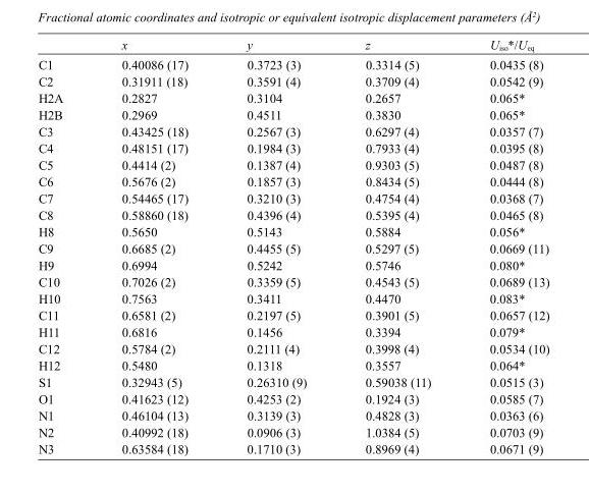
<table><thead><tr><td></td><td>x</td><td>y</td><td>z</td><td>U<sub>iso</sub>*/U<sub>eq</sub></td></tr></thead><tbody><tr><td>C1</td><td>0.40086 (17)</td><td>0.3723 (3)</td><td>0.3314 (5)</td><td>0.0435 (8)</td></tr><tr><td>C2</td><td>0.31911 (18)</td><td>0.3591 (4)</td><td>0.3709 (4)</td><td>0.0542 (9)</td></tr><tr><td>H2A</td><td>0.2827</td><td>0.3104</td><td>0.2657</td><td>0.065*</td></tr><tr><td>H2B</td><td>0.2969</td><td>0.4511</td><td>0.3830</td><td>0.065*</td></tr><tr><td>C3</td><td>0.43425 (18)</td><td>0.2567 (3)</td><td>0.6297 (4)</td><td>0.0357 (7)</td></tr><tr><td>C4</td><td>0.48151 (17)</td><td>0.1984 (3)</td><td>0.7933 (4)</td><td>0.0395 (8)</td></tr><tr><td>C5</td><td>0.4414 (2)</td><td>0.1387 (4)</td><td>0.9303 (5)</td><td>0.0487 (8)</td></tr><tr><td>C6</td><td>0.5676 (2)</td><td>0.1857 (3)</td><td>0.8434 (5)</td><td>0.0444 (8)</td></tr><tr><td>C7</td><td>0.54465 (17)</td><td>0.3210 (3)</td><td>0.4754 (4)</td><td>0.0368 (7)</td></tr><tr><td>C8</td><td>0.58860 (18)</td><td>0.4396 (4)</td><td>0.5395 (4)</td><td>0.0465 (8)</td></tr><tr><td>H8</td><td>0.5650</td><td>0.5143</td><td>0.5884</td><td>0.056*</td></tr><tr><td>C9</td><td>0.6685 (2)</td><td>0.4455 (5)</td><td>0.5297 (5)</td><td>0.0669 (11)</td></tr><tr><td>H9</td><td>0.6994</td><td>0.5242</td><td>0.5746</td><td>0.080*</td></tr><tr><td>C10</td><td>0.7026 (2)</td><td>0.3359 (5)</td><td>0.4543 (5)</td><td>0.0689 (13)</td></tr><tr><td>H10</td><td>0.7563</td><td>0.3411</td><td>0.4470</td><td>0.083*</td></tr><tr><td>C11</td><td>0.6581 (2)</td><td>0.2197 (5)</td><td>0.3901 (5)</td><td>0.0657 (12)</td></tr><tr><td>H11</td><td>0.6816</td><td>0.1456</td><td>0.3394</td><td>0.079*</td></tr><tr><td>C12</td><td>0.5784 (2)</td><td>0.2111 (4)</td><td>0.3998 (4)</td><td>0.0534 (10)</td></tr><tr><td>H12</td><td>0.5480</td><td>0.1318</td><td>0.3557</td><td>0.064*</td></tr><tr><td>S1</td><td>0.32943 (5)</td><td>0.26310 (9)</td><td>0.59038 (11)</td><td>0.0515 (3)</td></tr><tr><td>O1</td><td>0.41623 (12)</td><td>0.4253 (2)</td><td>0.1924 (3)</td><td>0.0585 (7)</td></tr><tr><td>N1</td><td>0.46104 (13)</td><td>0.3139 (3)</td><td>0.4828 (3)</td><td>0.0363 (6)</td></tr><tr><td>N2</td><td>0.40992 (18)</td><td>0.0906 (3)</td><td>1.0384 (5)</td><td>0.0703 (9)</td></tr><tr><td>N3</td><td>0.63584 (18)</td><td>0.1710 (3)</td><td>0.8969 (4)</td><td>0.0671 (9)</td></tr></tbody></table>